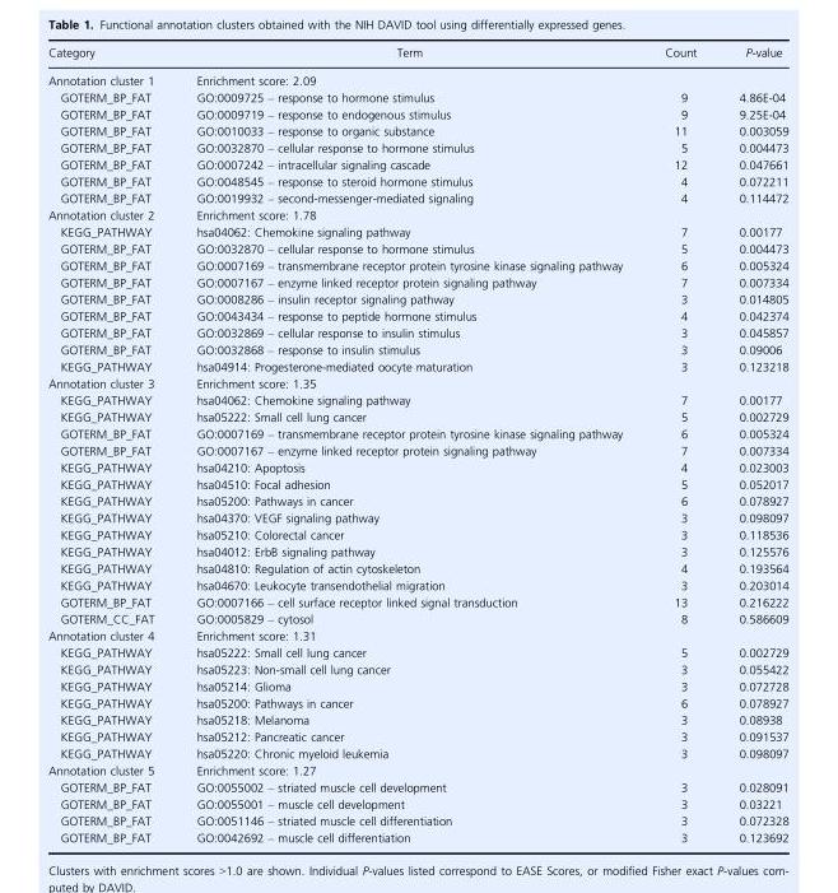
<table><thead><tr><td>Category</td><td>Term</td><td>Count</td><td>P-value</td></tr></thead><tbody><tr><td>Annotation cluster 1</td><td>Enrichment score: 2.09</td><td></td><td></td></tr><tr><td>GOTERM_BP_FAT</td><td>GO:0009725 – response to hormone stimulus</td><td>9</td><td>4.86E-04</td></tr><tr><td>GOTERM_BP_FAT</td><td>GO:0009719 – response to endogenous stimulus</td><td>9</td><td>9.25E-04</td></tr><tr><td>GOTERM_BP_FAT</td><td>GO:0010033 – response to organic substance</td><td>11</td><td>0.003059</td></tr><tr><td>GOTERM_BP_FAT</td><td>GO:0032870 – cellular response to hormone stimulus</td><td>5</td><td>0.004473</td></tr><tr><td>GOTERM_BP_FAT</td><td>GO:0007242 – intracellular signaling cascade</td><td>12</td><td>0.047661</td></tr><tr><td>GOTERM_BP_FAT</td><td>GO:0048545 – response to steroid hormone stimulus</td><td>4</td><td>0.072211</td></tr><tr><td>GOTERM_BP_FAT</td><td>GO:0019932 – second-messenger-mediated signaling</td><td>4</td><td>0.114472</td></tr><tr><td>Annotation cluster 2</td><td>Enrichment score: 1.78</td><td></td><td></td></tr><tr><td>KEGG_PATHWAY</td><td>hsa04062: Chemokine signaling pathway</td><td>7</td><td>0.00177</td></tr><tr><td>GOTERM_BP_FAT</td><td>GO:0032870 – cellular response to hormone stimulus</td><td>5</td><td>0.004473</td></tr><tr><td>GOTERM_BP_FAT</td><td>GO:0007169 – transmembrane receptor protein tyrosine kinase signaling pathway</td><td>6</td><td>0.005324</td></tr><tr><td>GOTERM_BP_FAT</td><td>GO:0007167 – enzyme linked receptor protein signaling pathway</td><td>7</td><td>0.007334</td></tr><tr><td>GOTERM_BP_FAT</td><td>GO:0008286 – insulin receptor signaling pathway</td><td>3</td><td>0.014805</td></tr><tr><td>GOTERM_BP_FAT</td><td>GO:0043434 – response to peptide hormone stimulus</td><td>4</td><td>0.042374</td></tr><tr><td>GOTERM_BP_FAT</td><td>GO:0032869 – cellular response to insulin stimulus</td><td>3</td><td>0.045857</td></tr><tr><td>GOTERM_BP_FAT</td><td>GO:0032868 – response to insulin stimulus</td><td>3</td><td>0.09006</td></tr><tr><td>KEGG_PATHWAY</td><td>hsa04914: Progesterone-mediated oocyte maturation</td><td>3</td><td>0.123218</td></tr><tr><td>Annotation cluster 3</td><td>Enrichment score: 1.35</td><td></td><td></td></tr><tr><td>KEGG_PATHWAY</td><td>hsa04062: Chemokine signaling pathway</td><td>7</td><td>0.00177</td></tr><tr><td>KEGG_PATHWAY</td><td>hsa05222: Small cell lung cancer</td><td>5</td><td>0.002729</td></tr><tr><td>GOTERM_BP_FAT</td><td>GO:0007169 – transmembrane receptor protein tyrosine kinase signaling pathway</td><td>6</td><td>0.005324</td></tr><tr><td>GOTERM_BP_FAT</td><td>GO:0007167 – enzyme linked receptor protein signaling pathway</td><td>7</td><td>0.007334</td></tr><tr><td>KEGG_PATHWAY</td><td>hsa04210: Apoptosis</td><td>4</td><td>0.023003</td></tr><tr><td>KEGG_PATHWAY</td><td>hsa04510: Focal adhesion</td><td>5</td><td>0.052017</td></tr><tr><td>KEGG_PATHWAY</td><td>hsa05200: Pathways in cancer</td><td>6</td><td>0.078927</td></tr><tr><td>KEGG_PATHWAY</td><td>hsa04370: VEGF signaling pathway</td><td>3</td><td>0.098097</td></tr><tr><td>KEGG_PATHWAY</td><td>hsa05210: Colorectal cancer</td><td>3</td><td>0.118536</td></tr><tr><td>KEGG_PATHWAY</td><td>hsa04012: ErbB signaling pathway</td><td>3</td><td>0.125576</td></tr><tr><td>KEGG_PATHWAY</td><td>hsa04810: Regulation of actin cytoskeleton</td><td>4</td><td>0.193564</td></tr><tr><td>KEGG_PATHWAY</td><td>hsa04670: Leukocyte transendothelial migration</td><td>3</td><td>0.203014</td></tr><tr><td>GOTERM_BP_FAT</td><td>GO:0007166 – cell surface receptor linked signal transduction</td><td>13</td><td>0.216222</td></tr><tr><td>GOTERM_CC_FAT</td><td>GO:0005829 – cytosol</td><td>8</td><td>0.586609</td></tr><tr><td>Annotation cluster 4</td><td>Enrichment score: 1.31</td><td></td><td></td></tr><tr><td>KEGG_PATHWAY</td><td>hsa05222: Small cell lung cancer</td><td>5</td><td>0.002729</td></tr><tr><td>KEGG_PATHWAY</td><td>hsa05223: Non-small cell lung cancer</td><td>3</td><td>0.055422</td></tr><tr><td>KEGG_PATHWAY</td><td>hsa05214: Glioma</td><td>3</td><td>0.072728</td></tr><tr><td>KEGG_PATHWAY</td><td>hsa05200: Pathways in cancer</td><td>6</td><td>0.078927</td></tr><tr><td>KEGG_PATHWAY</td><td>hsa05218: Melanoma</td><td>3</td><td>0.08938</td></tr><tr><td>KEGG_PATHWAY</td><td>hsa05212: Pancreatic cancer</td><td>3</td><td>0.091537</td></tr><tr><td>KEGG_PATHWAY</td><td>hsa05220: Chronic myeloid leukemia</td><td>3</td><td>0.098097</td></tr><tr><td>Annotation cluster 5</td><td>Enrichment score: 1.27</td><td></td><td></td></tr><tr><td>GOTERM_BP_FAT</td><td>GO:0055002 – striated muscle cell development</td><td>3</td><td>0.028091</td></tr><tr><td>GOTERM_BP_FAT</td><td>GO:0055001 – muscle cell development</td><td>3</td><td>0.03221</td></tr><tr><td>GOTERM_BP_FAT</td><td>GO:0051146 – striated muscle cell differentiation</td><td>3</td><td>0.072328</td></tr><tr><td>GOTERM_BP_FAT</td><td>GO:0042692 – muscle cell differentiation</td><td>3</td><td>0.123692</td></tr></tbody></table>